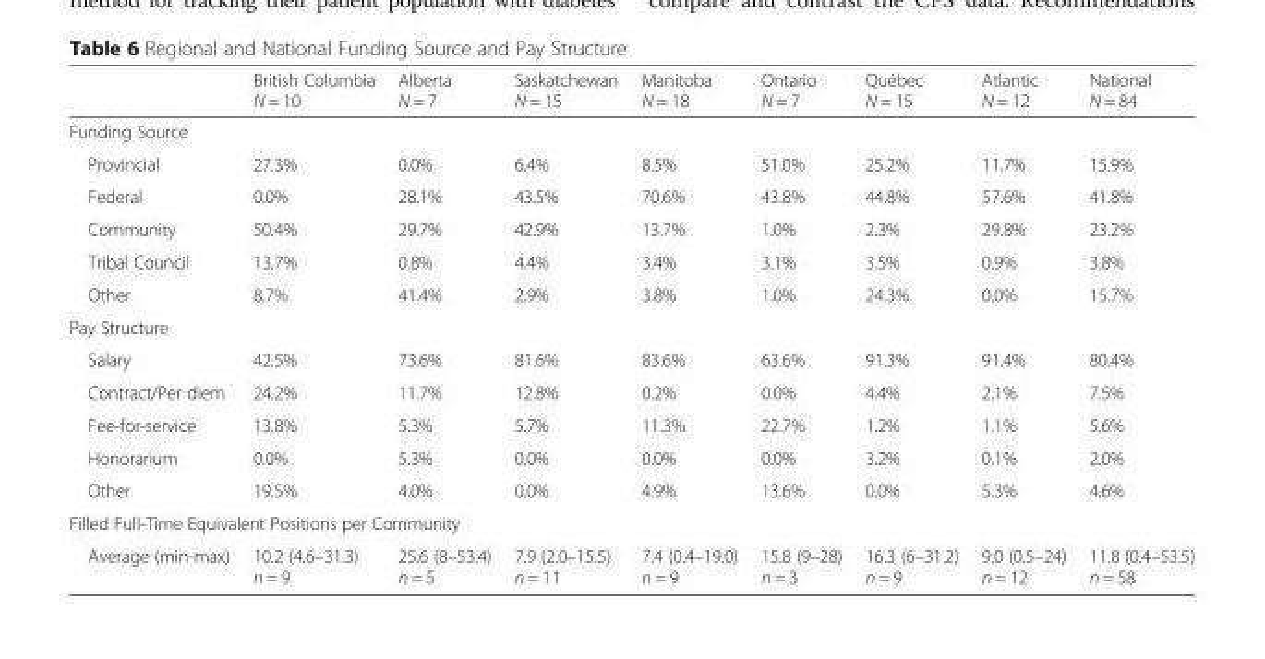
<table><thead><tr><td></td><td>British Columbia N = 10</td><td>Alberta N = 7</td><td>Saskatchewan N = 15</td><td>Manitoba N = 18</td><td>Ontario N = 7</td><td>Québec N = 15</td><td>Atlantic N = 12</td><td>National N = 84</td></tr></thead><tbody><tr><td colspan="9">Funding Source</td></tr><tr><td>Provincial</td><td>27.3%</td><td>0.0%</td><td>6.4%</td><td>8.5%</td><td>51.0%</td><td>25.2%</td><td>11.7%</td><td>15.9%</td></tr><tr><td>Federal</td><td>0.0%</td><td>28.1%</td><td>43.5%</td><td>70.6%</td><td>43.8%</td><td>44.8%</td><td>57.6%</td><td>41.8%</td></tr><tr><td>Community</td><td>50.4%</td><td>29.7%</td><td>42.9%</td><td>13.7%</td><td>1.0%</td><td>2.3%</td><td>29.8%</td><td>23.2%</td></tr><tr><td>Tribal Council</td><td>13.7%</td><td>0.8%</td><td>4.4%</td><td>3.4%</td><td>3.1%</td><td>3.5%</td><td>0.9%</td><td>3.8%</td></tr><tr><td>Other</td><td>8.7%</td><td>41.4%</td><td>2.9%</td><td>3.8%</td><td>1.0%</td><td>24.3%</td><td>0.0%</td><td>15.7%</td></tr><tr><td colspan="9">Pay Structure</td></tr><tr><td>Salary</td><td>42.5%</td><td>73.6%</td><td>81.6%</td><td>83.6%</td><td>63.6%</td><td>91.3%</td><td>91.4%</td><td>80.4%</td></tr><tr><td>Contract/Per diem</td><td>24.2%</td><td>11.7%</td><td>12.8%</td><td>0.2%</td><td>0.0%</td><td>4.4%</td><td>2.1%</td><td>7.5%</td></tr><tr><td>Fee-for-service</td><td>13.8%</td><td>5.3%</td><td>5.7%</td><td>11.3%</td><td>22.7%</td><td>1.2%</td><td>1.1%</td><td>5.6%</td></tr><tr><td>Honorarium</td><td>0.0%</td><td>5.3%</td><td>0.0%</td><td>0.0%</td><td>0.0%</td><td>3.2%</td><td>0.1%</td><td>2.0%</td></tr><tr><td>Other</td><td>19.5%</td><td>4.0%</td><td>0.0%</td><td>4.9%</td><td>13.6%</td><td>0.0%</td><td>5.3%</td><td>4.6%</td></tr><tr><td colspan="9">Filled Full-Time Equivalent Positions per Community</td></tr><tr><td>Average (min-max)</td><td>10.2 (4.6–31.3) n = 9</td><td>25.6 (8–53.4) n = 5</td><td>7.9 (2.0–15.5) n = 11</td><td>7.4 (0.4–19.0) n = 9</td><td>15.8 (9–28) n = 3</td><td>16.3 (6–31.2) n = 9</td><td>9.0 (0.5–24) n = 12</td><td>11.8 (0.4–53.5) n = 58</td></tr></tbody></table>